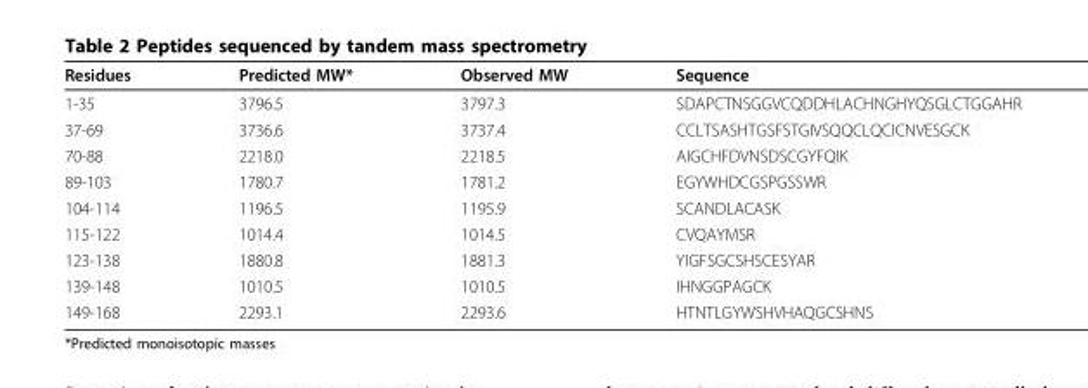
<table><thead><tr><td>Residues</td><td>Predicted MW*</td><td>Observed MW</td><td>Sequence</td></tr></thead><tbody><tr><td>1-35</td><td>3796.5</td><td>3797.3</td><td>SDAPCTNSGGVCQDDHLACHNGHYQSGLCTGGAHR</td></tr><tr><td>37-69</td><td>3736.6</td><td>3737.4</td><td>CCLTSASHTGSFSTGIVSQQCLQCICNVESGCK</td></tr><tr><td>70-88</td><td>2218.0</td><td>2218.5</td><td>AIGCHFDVNSDSCGYFQIK</td></tr><tr><td>89-103</td><td>1780.7</td><td>1781.2</td><td>EGYWHDCGSPGSSWR</td></tr><tr><td>104-114</td><td>1196.5</td><td>1195.9</td><td>SCANDLACASK</td></tr><tr><td>115-122</td><td>1014.4</td><td>1014.5</td><td>CVQAYMSR</td></tr><tr><td>123-138</td><td>1880.8</td><td>1881.3</td><td>YIGFSGCSHSCESYAR</td></tr><tr><td>139-148</td><td>1010.5</td><td>1010.5</td><td>IHNGGPAGCK</td></tr><tr><td>149-168</td><td>2293.1</td><td>2293.6</td><td>HTNTLGYWSHVHAQGCSHNS</td></tr></tbody></table>